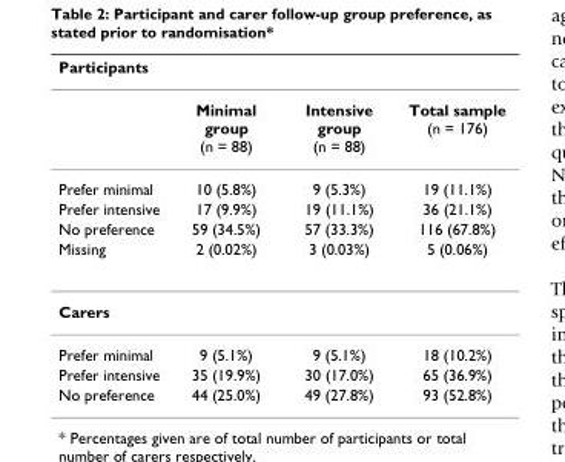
<table><thead><tr><td colspan="4">Participants</td></tr><tr><td></td><td>Minimal group (n = 88)</td><td>Intensive group (n = 88)</td><td>Total sample (n = 176)</td></tr></thead><tbody><tr><td>Prefer minimal</td><td>10 (5.8%)</td><td>9 (5.3%)</td><td>19 (11.1%)</td></tr><tr><td>Prefer intensive</td><td>17 (9.9%)</td><td>19 (11.1%)</td><td>36 (21.1%)</td></tr><tr><td>No preference</td><td>59 (34.5%)</td><td>57 (33.3%)</td><td>116 (67.8%)</td></tr><tr><td>Missing</td><td>2 (0.02%)</td><td>3 (0.03%)</td><td>5 (0.06%)</td></tr><tr><td colspan="4">Carers</td></tr><tr><td>Prefer minimal</td><td>9 (5.1%)</td><td>9 (5.1%)</td><td>18 (10.2%)</td></tr><tr><td>Prefer intensive</td><td>35 (19.9%)</td><td>30 (17.0%)</td><td>65 (36.9%)</td></tr><tr><td>No preference</td><td>44 (25.0%)</td><td>49 (27.8%)</td><td>93 (52.8%)</td></tr></tbody></table>